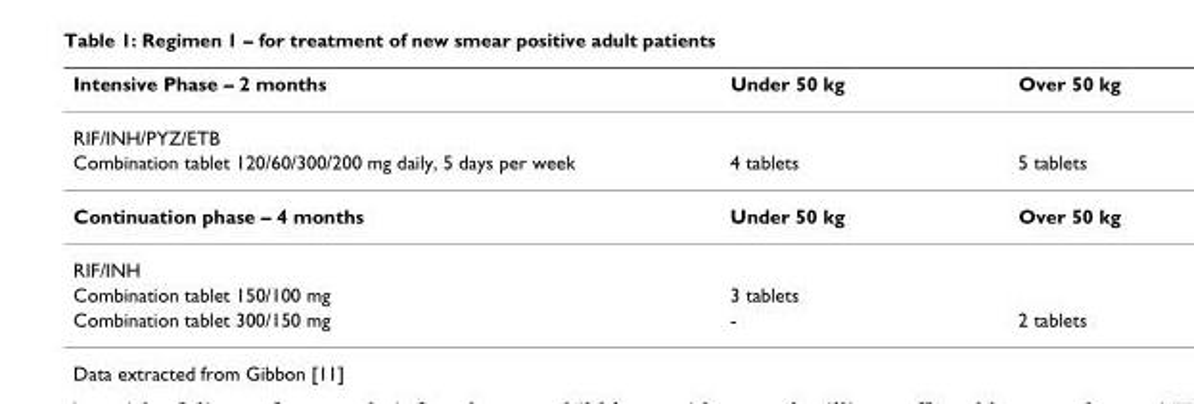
<table><thead><tr><td>Intensive Phase – 2 months</td><td>Under 50 kg</td><td>Over 50 kg</td></tr></thead><tbody><tr><td colspan="3">RIF/INH/PYZ/ETB</td></tr><tr><td>Combination tablet 120/60/300/200 mg daily, 5 days per week</td><td>4 tablets</td><td>5 tablets</td></tr><tr><td>Continuation phase – 4 months</td><td>Under 50 kg</td><td>Over 50 kg</td></tr><tr><td colspan="3">RIF/INH</td></tr><tr><td>Combination tablet 150/100 mg</td><td>3 tablets</td><td></td></tr><tr><td>Combination tablet 300/150 mg</td><td>-</td><td>2 tablets</td></tr></tbody></table>